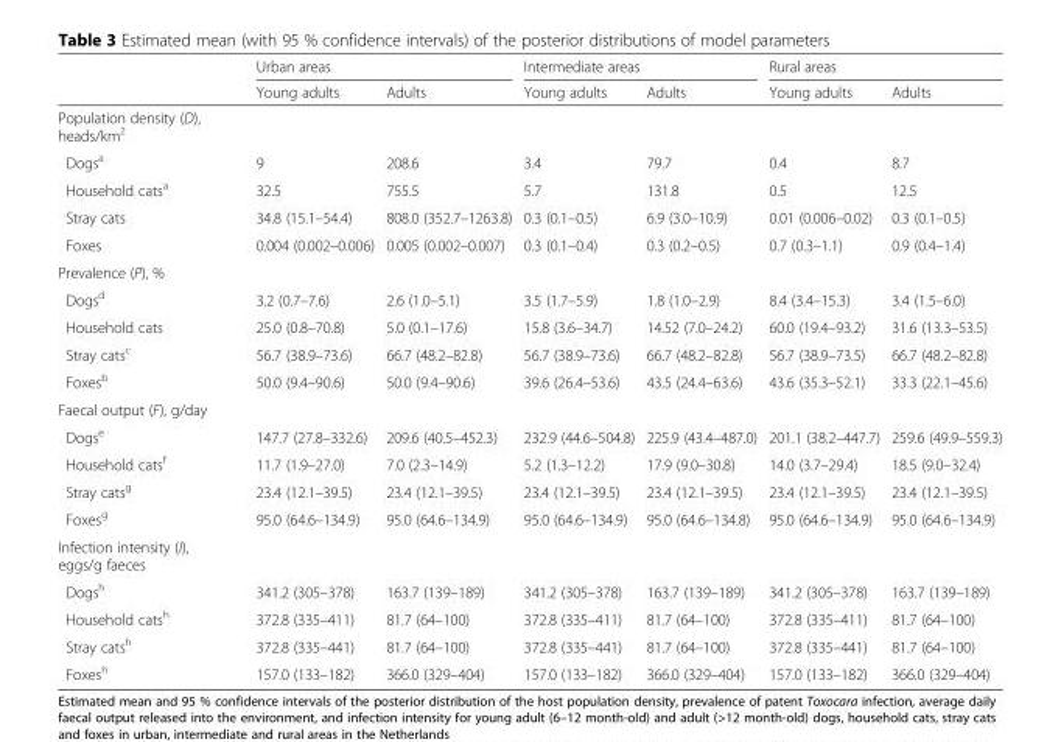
<table><thead><tr><td rowspan="2"></td><td colspan="2">Urban areas</td><td colspan="2">Intermediate areas</td><td colspan="2">Rural areas</td></tr><tr><td>Young adults</td><td>Adults</td><td>Young adults</td><td>Adults</td><td>Young adults</td><td>Adults</td></tr></thead><tbody><tr><td colspan="7">Population density (D), heads/km<sup>2</sup></td></tr><tr><td>Dogs<sup>a</sup></td><td>9</td><td>208.6</td><td>3.4</td><td>79.7</td><td>0.4</td><td>8.7</td></tr><tr><td>Household cats<sup>a</sup></td><td>32.5</td><td>755.5</td><td>5.7</td><td>131.8</td><td>0.5</td><td>12.5</td></tr><tr><td>Stray cats</td><td>34.8 (15.1–54.4)</td><td>808.0 (352.7–1263.8)</td><td>0.3 (0.1–0.5)</td><td>6.9 (3.0–10.9)</td><td>0.01 (0.006–0.02)</td><td>0.3 (0.1–0.5)</td></tr><tr><td>Foxes</td><td>0.004 (0.002–0.006)</td><td>0.005 (0.002–0.007)</td><td>0.3 (0.1–0.4)</td><td>0.3 (0.2–0.5)</td><td>0.7 (0.3–1.1)</td><td>0.9 (0.4–1.4)</td></tr><tr><td colspan="7">Prevalence (P), %</td></tr><tr><td>Dogs<sup>d</sup></td><td>3.2 (0.7–7.6)</td><td>2.6 (1.0–5.1)</td><td>3.5 (1.7–5.9)</td><td>1.8 (1.0–2.9)</td><td>8.4 (3.4–15.3)</td><td>3.4 (1.5–6.0)</td></tr><tr><td>Household cats</td><td>25.0 (0.8–70.8)</td><td>5.0 (0.1–17.6)</td><td>15.8 (3.6–34.7)</td><td>14.52 (7.0–24.2)</td><td>60.0 (19.4–93.2)</td><td>31.6 (13.3–53.5)</td></tr><tr><td>Stray cats<sup>c</sup></td><td>56.7 (38.9–73.6)</td><td>66.7 (48.2–82.8)</td><td>56.7 (38.9–73.6)</td><td>66.7 (48.2–82.8)</td><td>56.7 (38.9–73.5)</td><td>66.7 (48.2–82.8)</td></tr><tr><td>Foxes<sup>b</sup></td><td>50.0 (9.4–90.6)</td><td>50.0 (9.4–90.6)</td><td>39.6 (26.4–53.6)</td><td>43.5 (24.4–63.6)</td><td>43.6 (35.3–52.1)</td><td>33.3 (22.1–45.6)</td></tr><tr><td colspan="7">Faecal output (F), g/day</td></tr><tr><td>Dogs<sup>e</sup></td><td>147.7 (27.8–332.6)</td><td>209.6 (40.5–452.3)</td><td>232.9 (44.6–504.8)</td><td>225.9 (43.4–487.0)</td><td>201.1 (38.2–447.7)</td><td>259.6 (49.9–559.3)</td></tr><tr><td>Household cats<sup>f</sup></td><td>11.7 (1.9–27.0)</td><td>7.0 (2.3–14.9)</td><td>5.2 (1.3–12.2)</td><td>17.9 (9.0–30.8)</td><td>14.0 (3.7–29.4)</td><td>18.5 (9.0–32.4)</td></tr><tr><td>Stray cats<sup>g</sup></td><td>23.4 (12.1–39.5)</td><td>23.4 (12.1–39.5)</td><td>23.4 (12.1–39.5)</td><td>23.4 (12.1–39.5)</td><td>23.4 (12.1–39.5)</td><td>23.4 (12.1–39.5)</td></tr><tr><td>Foxes<sup>g</sup></td><td>95.0 (64.6–134.9)</td><td>95.0 (64.6–134.9)</td><td>95.0 (64.6–134.9)</td><td>95.0 (64.6–134.8)</td><td>95.0 (64.6–134.9)</td><td>95.0 (64.6–134.9)</td></tr><tr><td colspan="7">Infection intensity (I), eggs/g faeces</td></tr><tr><td>Dogs<sup>h</sup></td><td>341.2 (305–378)</td><td>163.7 (139–189)</td><td>341.2 (305–378)</td><td>163.7 (139–189)</td><td>341.2 (305–378)</td><td>163.7 (139–189)</td></tr><tr><td>Household cats<sup>h</sup></td><td>372.8 (335–411)</td><td>81.7 (64–100)</td><td>372.8 (335–411)</td><td>81.7 (64–100)</td><td>372.8 (335–411)</td><td>81.7 (64–100)</td></tr><tr><td>Stray cats<sup>h</sup></td><td>372.8 (335–441)</td><td>81.7 (64–100)</td><td>372.8 (335–441)</td><td>81.7 (64–100)</td><td>372.8 (335–441)</td><td>81.7 (64–100)</td></tr><tr><td>Foxes<sup>h</sup></td><td>157.0 (133–182)</td><td>366.0 (329–404)</td><td>157.0 (133–182)</td><td>366.0 (329–404)</td><td>157.0 (133–182)</td><td>366.0 (329–404)</td></tr></tbody></table>